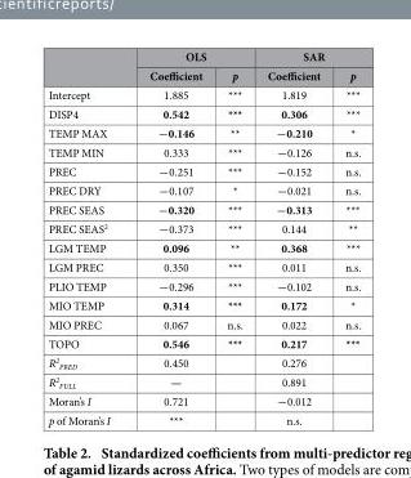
<table><thead><tr><td rowspan="2"></td><td colspan="2">OLS</td><td colspan="2">SAR</td></tr><tr><td>Coefficient</td><td>p</td><td>Coefficient</td><td>p</td></tr></thead><tbody><tr><td>Intercept</td><td>1.885</td><td>***</td><td>1.819</td><td>***</td></tr><tr><td>DISP4</td><td>0.542</td><td>***</td><td>0.306</td><td>***</td></tr><tr><td>TEMP MAX</td><td>−0.146</td><td>**</td><td>−0.210</td><td>*</td></tr><tr><td>TEMP MIN</td><td>0.333</td><td>***</td><td>−0.126</td><td>n.s.</td></tr><tr><td>PREC</td><td>−0.251</td><td>***</td><td>−0.152</td><td>n.s.</td></tr><tr><td>PREC DRY</td><td>−0.107</td><td>*</td><td>−0.021</td><td>n.s.</td></tr><tr><td>PREC SEAS</td><td>−0.320</td><td>***</td><td>−0.313</td><td>***</td></tr><tr><td>PREC SEAS<sup>2</sup></td><td>−0.373</td><td>***</td><td>0.144</td><td>**</td></tr><tr><td>LGM TEMP</td><td>0.096</td><td>**</td><td>0.368</td><td>***</td></tr><tr><td>LGM PREC</td><td>0.350</td><td>***</td><td>0.011</td><td>n.s.</td></tr><tr><td>PLIO TEMP</td><td>−0.296</td><td>***</td><td>−0.102</td><td>n.s.</td></tr><tr><td>MIO TEMP</td><td>0.314</td><td>***</td><td>0.172</td><td>*</td></tr><tr><td>MIO PREC</td><td>0.067</td><td>n.s.</td><td>0.022</td><td>n.s.</td></tr><tr><td>TOPO</td><td>0.546</td><td>***</td><td>0.217</td><td>***</td></tr><tr><td>R<sup>2</sup> <sub>PRED</sub></td><td>0.450</td><td></td><td>0.276</td><td></td></tr><tr><td>R<sup>2</sup> <sub>FULL</sub></td><td>—</td><td></td><td>0.891</td><td></td></tr><tr><td>Moran’s I</td><td>0.721</td><td></td><td>−0.012</td><td></td></tr><tr><td>p of Moran’s I</td><td>***</td><td></td><td>n.s.</td><td></td></tr></tbody></table>